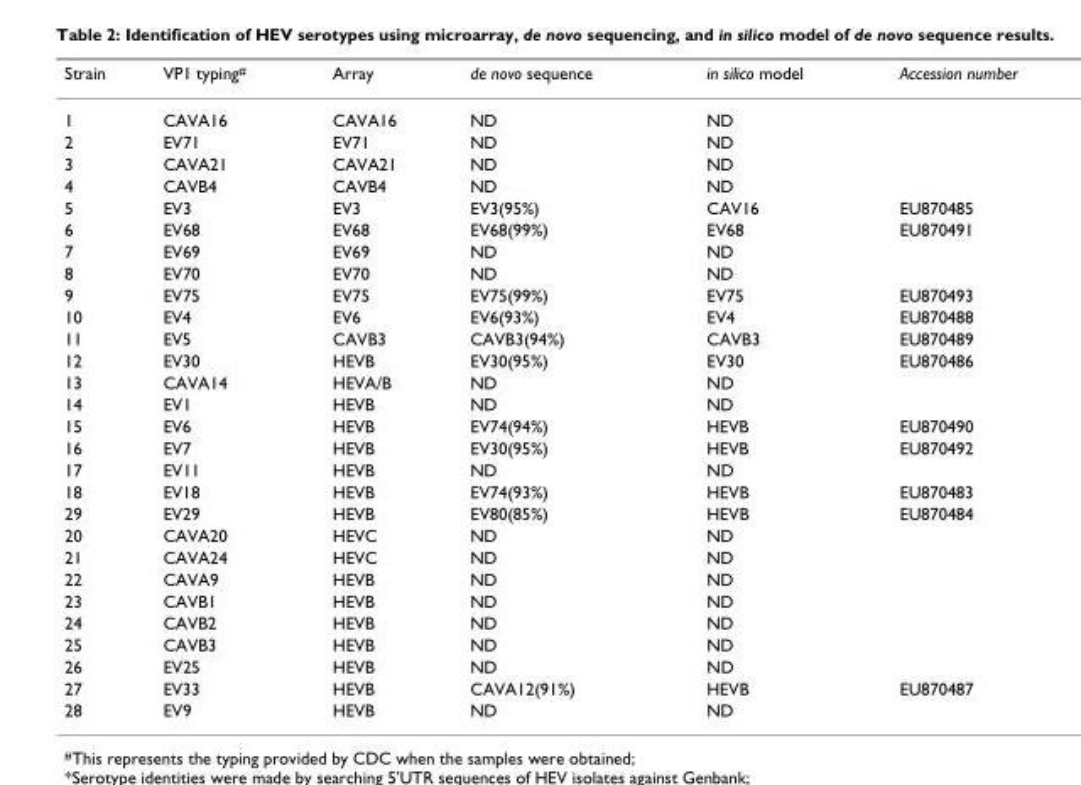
<table><thead><tr><td>Strain</td><td>VP1 typing<sup>#</sup></td><td>Array</td><td>de novo sequence</td><td>in silico model</td><td>Accession number</td></tr></thead><tbody><tr><td>1</td><td>CAVA16</td><td>CAVA16</td><td>ND</td><td>ND</td><td></td></tr><tr><td>2</td><td>EV71</td><td>EV71</td><td>ND</td><td>ND</td><td></td></tr><tr><td>3</td><td>CAVA21</td><td>CAVA21</td><td>ND</td><td>ND</td><td></td></tr><tr><td>4</td><td>CAVB4</td><td>CAVB4</td><td>ND</td><td>ND</td><td></td></tr><tr><td>5</td><td>EV3</td><td>EV3</td><td>EV3(95%)</td><td>CAV16</td><td>EU870485</td></tr><tr><td>6</td><td>EV68</td><td>EV68</td><td>EV68(99%)</td><td>EV68</td><td>EU870491</td></tr><tr><td>7</td><td>EV69</td><td>EV69</td><td>ND</td><td>ND</td><td></td></tr><tr><td>8</td><td>EV70</td><td>EV70</td><td>ND</td><td>ND</td><td></td></tr><tr><td>9</td><td>EV75</td><td>EV75</td><td>EV75(99%)</td><td>EV75</td><td>EU870493</td></tr><tr><td>10</td><td>EV4</td><td>EV6</td><td>EV6(93%)</td><td>EV4</td><td>EU870488</td></tr><tr><td>11</td><td>EV5</td><td>CAVB3</td><td>CAVB3(94%)</td><td>CAVB3</td><td>EU870489</td></tr><tr><td>12</td><td>EV30</td><td>HEVB</td><td>EV30(95%)</td><td>EV30</td><td>EU870486</td></tr><tr><td>13</td><td>CAVA14</td><td>HEVA/B</td><td>ND</td><td>ND</td><td></td></tr><tr><td>14</td><td>EV1</td><td>HEVB</td><td>ND</td><td>ND</td><td></td></tr><tr><td>15</td><td>EV6</td><td>HEVB</td><td>EV74(94%)</td><td>HEVB</td><td>EU870490</td></tr><tr><td>16</td><td>EV7</td><td>HEVB</td><td>EV30(95%)</td><td>HEVB</td><td>EU870492</td></tr><tr><td>17</td><td>EV11</td><td>HEVB</td><td>ND</td><td>ND</td><td></td></tr><tr><td>18</td><td>EV18</td><td>HEVB</td><td>EV74(93%)</td><td>HEVB</td><td>EU870483</td></tr><tr><td>29</td><td>EV29</td><td>HEVB</td><td>EV80(85%)</td><td>HEVB</td><td>EU870484</td></tr><tr><td>20</td><td>CAVA20</td><td>HEVC</td><td>ND</td><td>ND</td><td></td></tr><tr><td>21</td><td>CAVA24</td><td>HEVC</td><td>ND</td><td>ND</td><td></td></tr><tr><td>22</td><td>CAVA9</td><td>HEVB</td><td>ND</td><td>ND</td><td></td></tr><tr><td>23</td><td>CAVB1</td><td>HEVB</td><td>ND</td><td>ND</td><td></td></tr><tr><td>24</td><td>CAVB2</td><td>HEVB</td><td>ND</td><td>ND</td><td></td></tr><tr><td>25</td><td>CAVB3</td><td>HEVB</td><td>ND</td><td>ND</td><td></td></tr><tr><td>26</td><td>EV25</td><td>HEVB</td><td>ND</td><td>ND</td><td></td></tr><tr><td>27</td><td>EV33</td><td>HEVB</td><td>CAVA12(91%)</td><td>HEVB</td><td>EU870487</td></tr><tr><td>28</td><td>EV9</td><td>HEVB</td><td>ND</td><td>ND</td><td></td></tr></tbody></table>